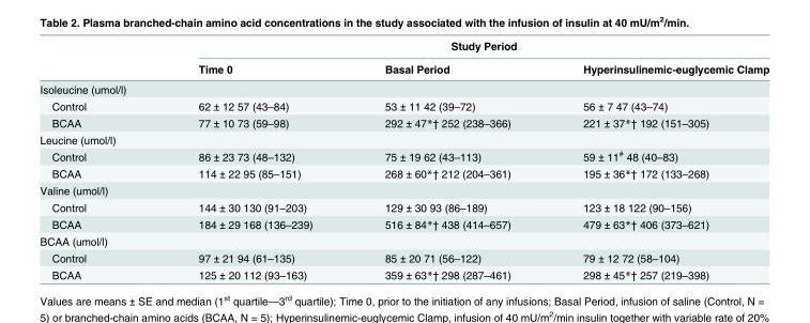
<table><thead><tr><td rowspan="2"></td><td colspan="3">Study Period</td></tr><tr><td>Time 0</td><td>Basal Period</td><td>Hyperinsulinemic-euglycemic Clamp</td></tr></thead><tbody><tr><td colspan="4">Isoleucine (umol/l)</td></tr><tr><td>Control</td><td>62 ± 12 57 (43–84)</td><td>53 ± 11 42 (39–72)</td><td>56 ± 7 47 (43–74)</td></tr><tr><td>BCAA</td><td>77 ± 10 73 (59–98)</td><td>292 ± 47*† 252 (238–366)</td><td>221 ± 37*† 192 (151–305)</td></tr><tr><td colspan="4">Leucine (umol/l)</td></tr><tr><td>Control</td><td>86 ± 23 73 (48–132)</td><td>75 ± 19 62 (43–113)</td><td>59 ± 11<sup>#</sup> 48 (40–83)</td></tr><tr><td>BCAA</td><td>114 ± 22 95 (85–151)</td><td>268 ± 60*† 212 (204–361)</td><td>195 ± 36*† 172 (133–268)</td></tr><tr><td colspan="4">Valine (umol/l)</td></tr><tr><td>Control</td><td>144 ± 30 130 (91–203)</td><td>129 ± 30 93 (86–189)</td><td>123 ± 18 122 (90–156)</td></tr><tr><td>BCAA</td><td>184 ± 29 168 (136–239)</td><td>516 ± 84*† 438 (414–657)</td><td>479 ± 63*† 406 (373–621)</td></tr><tr><td colspan="4">BCAA (umol/l)</td></tr><tr><td>Control</td><td>97 ± 21 94 (61–135)</td><td>85 ± 20 71 (56–122)</td><td>79 ± 12 72 (58–104)</td></tr><tr><td>BCAA</td><td>125 ± 20 112 (93–163)</td><td>359 ± 63*† 298 (287–461)</td><td>298 ± 45*† 257 (219–398)</td></tr></tbody></table>